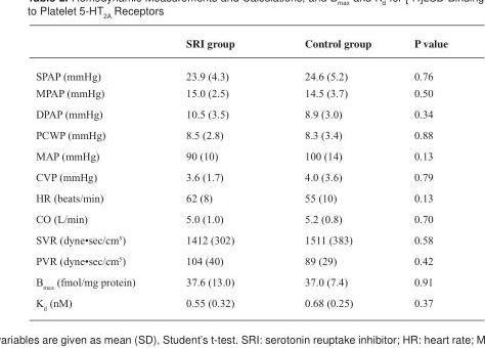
<table><thead><tr><td></td><td>SRI group</td><td>Control group</td><td>P value</td></tr></thead><tbody><tr><td>SPAP (mmHg)</td><td>23.9 (4.3)</td><td>24.6 (5.2)</td><td>0.76</td></tr><tr><td>MPAP (mmHg)</td><td>15.0 (2.5)</td><td>14.5 (3.7)</td><td>0.50</td></tr><tr><td>DPAP (mmHg)</td><td>10.5 (3.5)</td><td>8.9 (3.0)</td><td>0.34</td></tr><tr><td>PCWP (mmHg)</td><td>8.5 (2.8)</td><td>8.3 (3.4)</td><td>0.88</td></tr><tr><td>MAP (mmHg)</td><td>90 (10)</td><td>100 (14)</td><td>0.13</td></tr><tr><td>CVP (mmHg)</td><td>3.6 (1.7)</td><td>4.0 (3.6)</td><td>0.79</td></tr><tr><td>HR (beats/min)</td><td>62 (8)</td><td>55 (10)</td><td>0.13</td></tr><tr><td>CO (L/min)</td><td>5.0 (1.0)</td><td>5.2 (0.8)</td><td>0.70</td></tr><tr><td>SVR (dyne•sec/cm5)</td><td>1412 (302)</td><td>1511 (383)</td><td>0.58</td></tr><tr><td>PVR (dyne•sec/cm5)</td><td>104 (40)</td><td>89 (29)</td><td>0.42</td></tr><tr><td>B<sub>max</sub> (fmol/mg protein)</td><td>37.6 (13.0)</td><td>37.0 (7.4)</td><td>0.91</td></tr><tr><td>K<sub>d</sub> (nM)</td><td>0.55 (0.32)</td><td>0.68 (0.25)</td><td>0.37</td></tr></tbody></table>